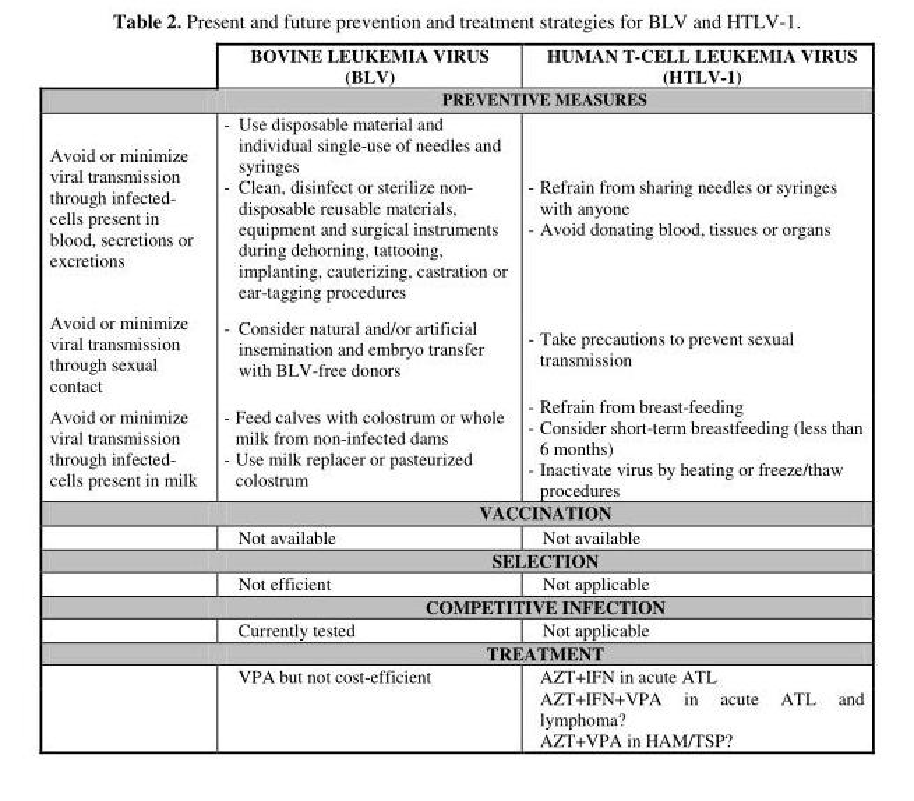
<table><thead><tr><td></td><td>BOVINE LEUKEMIA VIRUS (BLV)</td><td>HUMAN T-CELL LEUKEMIA VIRUS (HTLV-1)</td></tr></thead><tbody><tr><td></td><td colspan="2">PREVENTIVE MEASURES</td></tr><tr><td>Avoid or minimize viral transmission through infected- cells present in blood, secretions or excretions</td><td>- Use disposable material and individual single-use of needles and syringes - Clean, disinfect or sterilize non- disposable reusable materials, equipment and surgical instruments during dehorning, tattooing, implanting, cauterizing, castration or ear-tagging procedures</td><td>- Refrain from sharing needles or syringes with anyone - Avoid donating blood, tissues or organs</td></tr><tr><td>Avoid or minimize viral transmission through sexual contact</td><td>- Consider natural and/or artificial insemination and embryo transfer with BLV-free donors</td><td>- Take precautions to prevent sexual transmission</td></tr><tr><td rowspan="9">Avoid or minimize viral transmission through infected- cells present in milk</td><td>- Feed calves with colostrum or whole milk from non-infected dams - Use milk replacer or pasteurized colostrum</td><td>- Refrain from breast-feeding - Consider short-term breastfeeding (less than 6 months) - Inactivate virus by heating or freeze/thaw procedures</td></tr><tr><td colspan="2">VACCINATION</td></tr><tr><td>Not available</td><td>Not available</td></tr><tr><td colspan="2">SELECTION</td></tr><tr><td>Not efficient</td><td>Not applicable</td></tr><tr><td colspan="2">COMPETITIVE INFECTION</td></tr><tr><td>Currently tested</td><td>Not applicable</td></tr><tr><td colspan="2">TREATMENT</td></tr><tr><td>VPA but not cost-efficient</td><td>AZT+IFN in acute ATL AZT+IFN+VPA in acute ATL and lymphoma? AZT+VPA in HAM/TSP?</td></tr></tbody></table>